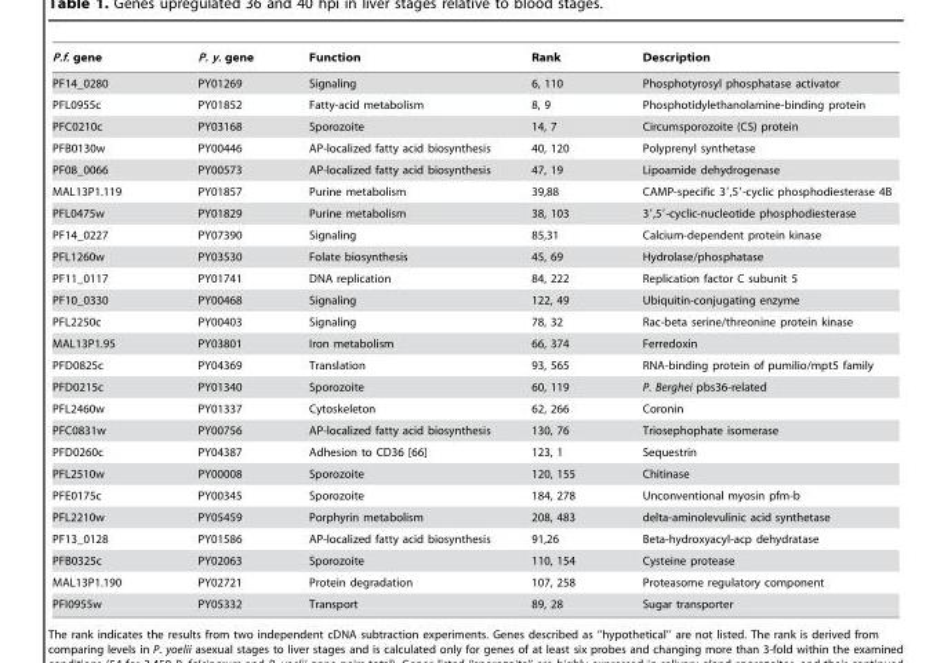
<table><thead><tr><td>P.f. gene</td><td>P. y. gene</td><td>Function</td><td>Rank</td><td>Description</td></tr></thead><tbody><tr><td>PF14_0280</td><td>PY01269</td><td>Signaling</td><td>6, 110</td><td>Phosphotyrosyl phosphatase activator</td></tr><tr><td>PFL0955c</td><td>PY01852</td><td>Fatty-acid metabolism</td><td>8, 9</td><td>Phosphotidylethanolamine-binding protein</td></tr><tr><td>PFC0210c</td><td>PY03168</td><td>Sporozoite</td><td>14, 7</td><td>Circumsporozoite (CS) protein</td></tr><tr><td>PFB0130w</td><td>PY00446</td><td>AP-localized fatty acid biosynthesis</td><td>40, 120</td><td>Polyprenyl synthetase</td></tr><tr><td>PF08_0066</td><td>PY00573</td><td>AP-localized fatty acid biosynthesis</td><td>47, 19</td><td>Lipoamide dehydrogenase</td></tr><tr><td>MAL13P1.119</td><td>PY01857</td><td>Purine metabolism</td><td>39,88</td><td>CAMP-specific 3′,5′-cyclic phosphodiesterase 4B</td></tr><tr><td>PFL0475w</td><td>PY01829</td><td>Purine metabolism</td><td>38, 103</td><td>3′,5′-cyclic-nucleotide phosphodiesterase</td></tr><tr><td>PF14_0227</td><td>PY07390</td><td>Signaling</td><td>85,31</td><td>Calcium-dependent protein kinase</td></tr><tr><td>PFL1260w</td><td>PY03530</td><td>Folate biosynthesis</td><td>45, 69</td><td>Hydrolase/phosphatase</td></tr><tr><td>PF11_0117</td><td>PY01741</td><td>DNA replication</td><td>84, 222</td><td>Replication factor C subunit 5</td></tr><tr><td>PF10_0330</td><td>PY00468</td><td>Signaling</td><td>122, 49</td><td>Ubiquitin-conjugating enzyme</td></tr><tr><td>PFL2250c</td><td>PY00403</td><td>Signaling</td><td>78, 32</td><td>Rac-beta serine/threonine protein kinase</td></tr><tr><td>MAL13P1.95</td><td>PY03801</td><td>Iron metabolism</td><td>66, 374</td><td>Ferredoxin</td></tr><tr><td>PFD0825c</td><td>PY04369</td><td>Translation</td><td>93, 565</td><td>RNA-binding protein of pumilio/mpt5 family</td></tr><tr><td>PFD0215c</td><td>PY01340</td><td>Sporozoite</td><td>60, 119</td><td>P. Berghei pbs36-related</td></tr><tr><td>PFL2460w</td><td>PY01337</td><td>Cytoskeleton</td><td>62, 266</td><td>Coronin</td></tr><tr><td>PFC0831w</td><td>PY00756</td><td>AP-localized fatty acid biosynthesis</td><td>130, 76</td><td>Triosephophate isomerase</td></tr><tr><td>PFD0260c</td><td>PY04387</td><td>Adhesion to CD36 [66]</td><td>123, 1</td><td>Sequestrin</td></tr><tr><td>PFL2510w</td><td>PY00008</td><td>Sporozoite</td><td>120, 155</td><td>Chitinase</td></tr><tr><td>PFE0175c</td><td>PY00345</td><td>Sporozoite</td><td>184, 278</td><td>Unconventional myosin pfm-b</td></tr><tr><td>PFL2210w</td><td>PY05459</td><td>Porphyrin metabolism</td><td>208, 483</td><td>delta-aminolevulinic acid synthetase</td></tr><tr><td>PF13_0128</td><td>PY01586</td><td>AP-localized fatty acid biosynthesis</td><td>91,26</td><td>Beta-hydroxyacyl-acp dehydratase</td></tr><tr><td>PFB0325c</td><td>PY02063</td><td>Sporozoite</td><td>110, 154</td><td>Cysteine protease</td></tr><tr><td>MAL13P1.190</td><td>PY02721</td><td>Protein degradation</td><td>107, 258</td><td>Proteasome regulatory component</td></tr><tr><td>PFI0955w</td><td>PY05332</td><td>Transport</td><td>89, 28</td><td>Sugar transporter</td></tr></tbody></table>